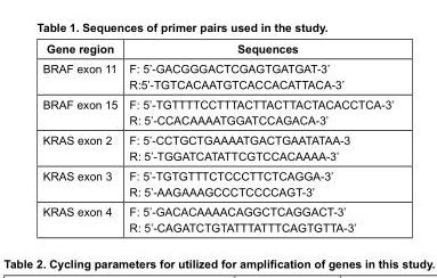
<table><thead><tr><td>Gene region</td><td>Sequences</td></tr></thead><tbody><tr><td>BRAF exon 11</td><td>F: 5’-GACGGGACTCGAGTGATGAT-3’ R:5’-TGTCACAATGTCACCACATTACA-3’</td></tr><tr><td>BRAF exon 15</td><td>F: 5’-TGTTTTCCTTTACTTACTTACTACACCTCA-3’ R: 5’-CCACAAAATGGATCCAGACA-3’</td></tr><tr><td>KRAS exon 2</td><td>F: 5’-CCTGCTGAAAATGACTGAATATAA-3 R: 5’-TGGATCATATTCGTCCACAAAA-3’</td></tr><tr><td>KRAS exon 3</td><td>F: 5’-TGTGTTTCTCCCTTCTCAGGA-3’ R: 5’-AAGAAAGCCCTCCCCAGT-3’</td></tr><tr><td>KRAS exon 4</td><td>F: 5’-GACACAAAACAGGCTCAGGACT-3’ R: 5’-CAGATCTGTATTTATTTCAGTGTTA-3’</td></tr></tbody></table>